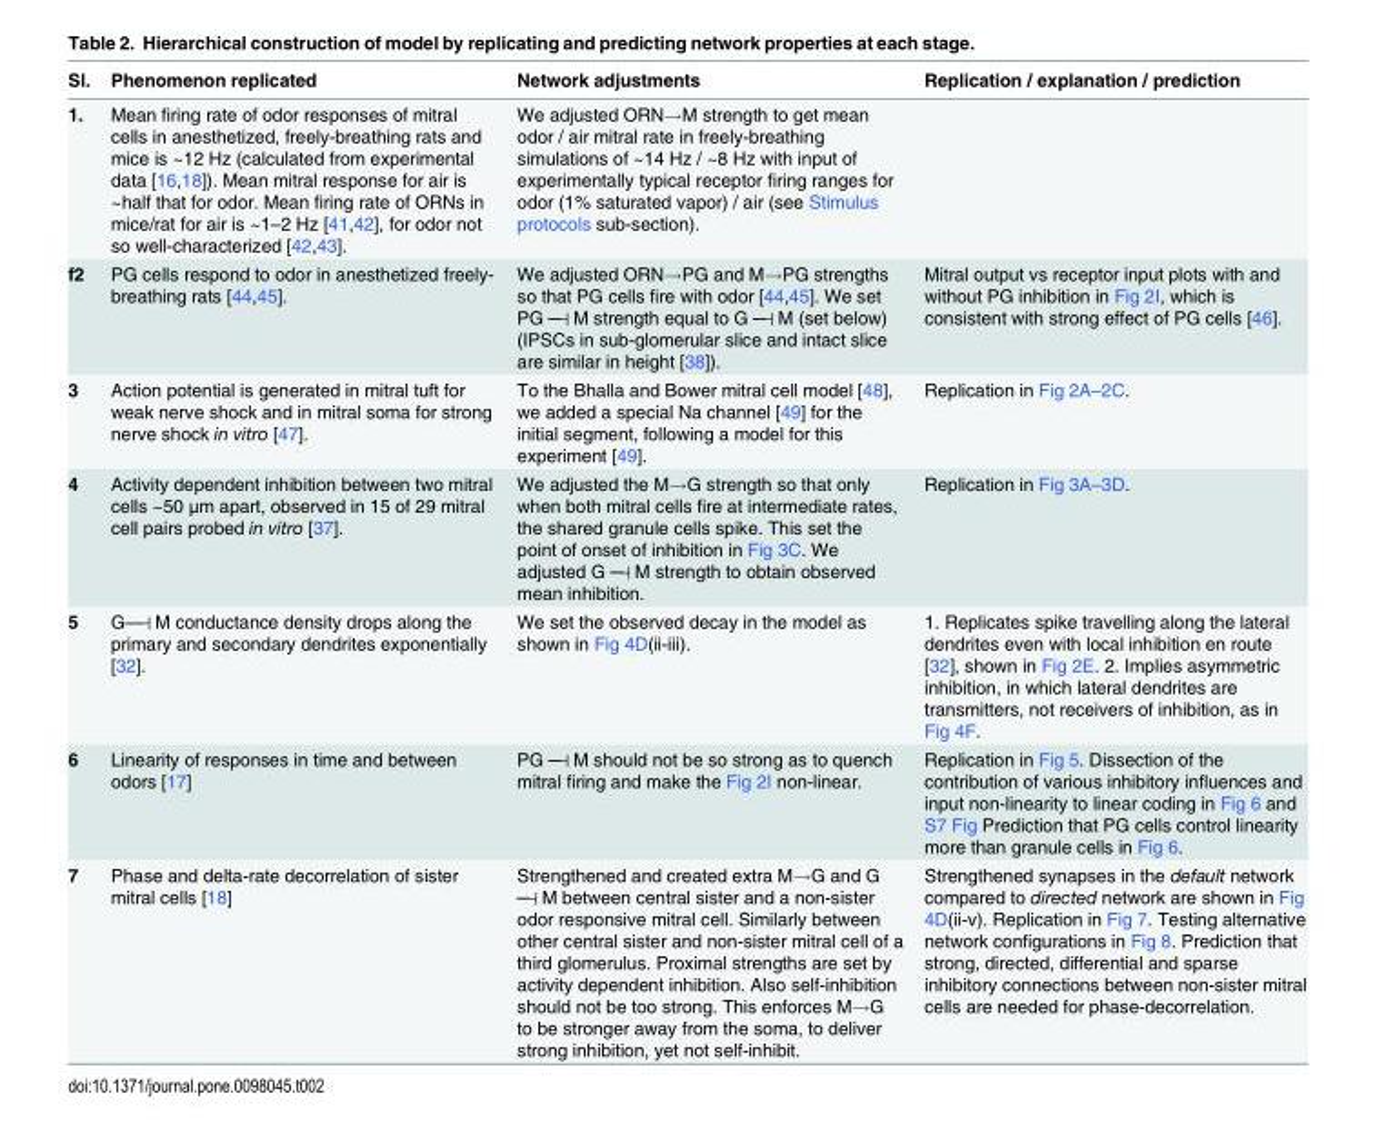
<table><thead><tr><td>Sl.</td><td>Phenomenon replicated</td><td>Network adjustments</td><td>Replication / explanation / prediction</td></tr></thead><tbody><tr><td>1.</td><td>Mean firing rate of odor responses of mitral cells in anesthetized, freely-breathing rats and mice is ~12 Hz (calculated from experimental data [16,18]). Mean mitral response for air is ~half that for odor. Mean firing rate of ORNs in mice/rat for air is ~1–2 Hz [41,42], for odor not so well-characterized [42,43].</td><td>We adjusted ORN→M strength to get mean odor / air mitral rate in freely-breathing simulations of ~14 Hz / ~8 Hz with input of experimentally typical receptor firing ranges for odor (1% saturated vapor) / air (see Stimulus protocols sub-section).</td><td></td></tr><tr><td>f2</td><td>PG cells respond to odor in anesthetized freely- breathing rats [44,45].</td><td>We adjusted ORN→PG and M→PG strengths so that PG cells fire with odor [44,45]. We set PG ─┤M strength equal to G ─┤M (set below) (IPSCs in sub-glomerular slice and intact slice are similar in height [38]).</td><td>Mitral output vs receptor input plots with and without PG inhibition in Fig 2I, which is consistent with strong effect of PG cells [46].</td></tr><tr><td>3</td><td>Action potential is generated in mitral tuft for weak nerve shock and in mitral soma for strong nerve shock in vitro [47].</td><td>To the Bhalla and Bower mitral cell model [48], we added a special Na channel [49] for the initial segment, following a model for this experiment [49].</td><td>Replication in Fig 2A–2C.</td></tr><tr><td>4</td><td>Activity dependent inhibition between two mitral cells ~50 μm apart, observed in 15 of 29 mitral cell pairs probed in vitro [37].</td><td>We adjusted the M→G strength so that only when both mitral cells fire at intermediate rates, the shared granule cells spike. This set the point of onset of inhibition in Fig 3C. We adjusted G ─┤M strength to obtain observed mean inhibition.</td><td>Replication in Fig 3A–3D.</td></tr><tr><td>5</td><td>G—┤M conductance density drops along the primary and secondary dendrites exponentially [32].</td><td>We set the observed decay in the model as shown in Fig 4D(ii-iii).</td><td>1. Replicates spike travelling along the lateral dendrites even with local inhibition en route [32], shown in Fig 2E. 2. Implies asymmetric inhibition, in which lateral dendrites are transmitters, not receivers of inhibition, as in Fig 4F.</td></tr><tr><td>6</td><td>Linearity of responses in time and between odors [17]</td><td>PG ─┤M should not be so strong as to quench mitral firing and make the Fig 2I non-linear.</td><td>Replication in Fig 5. Dissection of the contribution of various inhibitory influences and input non-linearity to linear coding in Fig 6 and S7 Fig Prediction that PG cells control linearity more than granule cells in Fig 6.</td></tr><tr><td>7</td><td>Phase and delta-rate decorrelation of sister mitral cells [18]</td><td>Strengthened and created extra M→G and G ─┤M between central sister and a non-sister odor responsive mitral cell. Similarly between other central sister and non-sister mitral cell of a third glomerulus. Proximal strengths are set by activity dependent inhibition. Also self-inhibition should not be too strong. This enforces M→G to be stronger away from the soma, to deliver strong inhibition, yet not self-inhibit.</td><td>Strengthened synapses in the default network compared to directed network are shown in Fig 4D(ii-v). Replication in Fig 7. Testing alternative network configurations in Fig 8. Prediction that strong, directed, differential and sparse inhibitory connections between non-sister mitral cells are needed for phase-decorrelation.</td></tr></tbody></table>